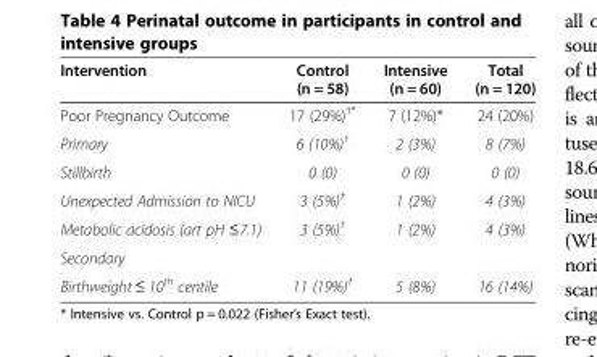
<table><thead><tr><td>Intervention</td><td>Control (n = 58)</td><td>Intensive (n = 60)</td><td>Total (n = 120)</td></tr></thead><tbody><tr><td>Poor Pregnancy Outcome</td><td>17 (29%)<sup>†*</sup></td><td>7 (12%)*</td><td>24 (20%)</td></tr><tr><td>Primary</td><td>6 (10%)<sup>†</sup></td><td>2 (3%)</td><td>8 (7%)</td></tr><tr><td>Stillbirth</td><td>0 (0)</td><td>0 (0)</td><td>0 (0)</td></tr><tr><td>Unexpected Admission to NICU</td><td>3 (5%)<sup>†</sup></td><td>1 (2%)</td><td>4 (3%)</td></tr><tr><td>Metabolic acidosis (art pH ≤7.1)</td><td>3 (5%)<sup>†</sup></td><td>1 (2%)</td><td>4 (3%)</td></tr><tr><td colspan="4">Secondary</td></tr><tr><td>Birthweight ≤ 10<sup>th</sup> centile</td><td>11 (19%)<sup>†</sup></td><td>5 (8%)</td><td>16 (14%)</td></tr></tbody></table>